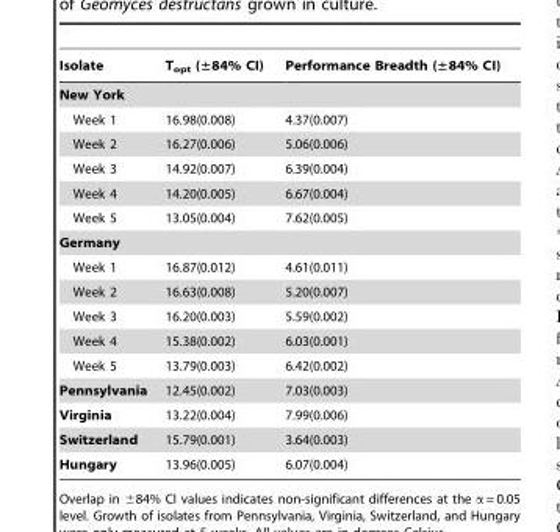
<table><thead><tr><td>Isolate</td><td>T<sub>opt</sub> (±84% CI)</td><td>Performance Breadth (±84% CI)</td></tr></thead><tbody><tr><td colspan="3">New York</td></tr><tr><td>Week 1</td><td>16.98(0.008)</td><td>4.37(0.007)</td></tr><tr><td>Week 2</td><td>16.27(0.006)</td><td>5.06(0.006)</td></tr><tr><td>Week 3</td><td>14.92(0.007)</td><td>6.39(0.004)</td></tr><tr><td>Week 4</td><td>14.20(0.005)</td><td>6.67(0.004)</td></tr><tr><td>Week 5</td><td>13.05(0.004)</td><td>7.62(0.005)</td></tr><tr><td colspan="3">Germany</td></tr><tr><td>Week 1</td><td>16.87(0.012)</td><td>4.61(0.011)</td></tr><tr><td>Week 2</td><td>16.63(0.008)</td><td>5.20(0.007)</td></tr><tr><td>Week 3</td><td>16.20(0.003)</td><td>5.59(0.002)</td></tr><tr><td>Week 4</td><td>15.38(0.002)</td><td>6.03(0.001)</td></tr><tr><td>Week 5</td><td>13.79(0.003)</td><td>6.42(0.002)</td></tr><tr><td>Pennsylvania</td><td>12.45(0.002)</td><td>7.03(0.003)</td></tr><tr><td>Virginia</td><td>13.22(0.004)</td><td>7.99(0.006)</td></tr><tr><td>Switzerland</td><td>15.79(0.001)</td><td>3.64(0.003)</td></tr><tr><td>Hungary</td><td>13.96(0.005)</td><td>6.07(0.004)</td></tr></tbody></table>